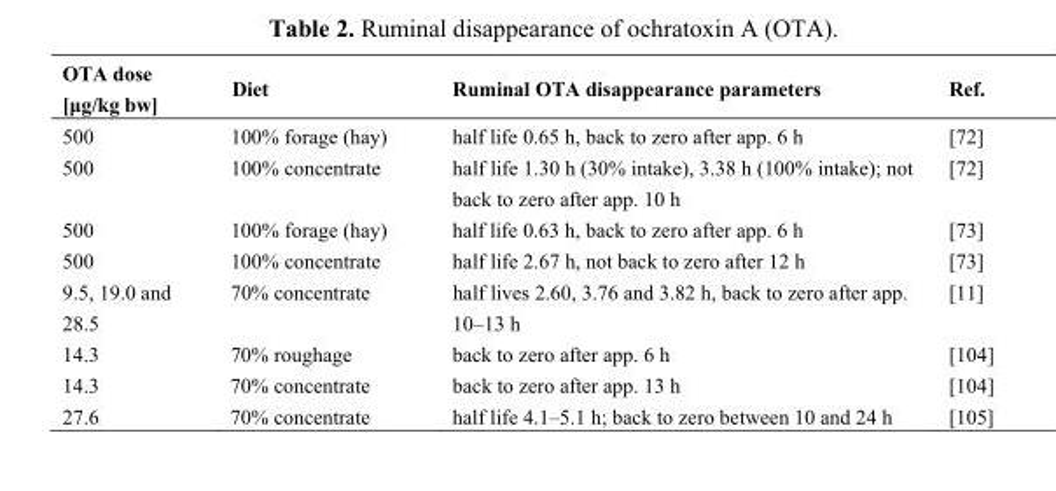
<table><thead><tr><td>OTA dose [μg/kg bw]</td><td>Diet</td><td>Ruminal OTA disappearance parameters</td><td>Ref.</td></tr></thead><tbody><tr><td>500</td><td>100% forage (hay)</td><td>half life 0.65 h, back to zero after app. 6 h</td><td>[72]</td></tr><tr><td>500</td><td>100% concentrate</td><td>half life 1.30 h (30% intake), 3.38 h (100% intake); not back to zero after app. 10 h</td><td>[72]</td></tr><tr><td>500</td><td>100% forage (hay)</td><td>half life 0.63 h, back to zero after app. 6 h</td><td>[73]</td></tr><tr><td>500</td><td>100% concentrate</td><td>half life 2.67 h, not back to zero after 12 h</td><td>[73]</td></tr><tr><td>9.5, 19.0 and 28.5</td><td>70% concentrate</td><td>half lives 2.60, 3.76 and 3.82 h, back to zero after app. 10–13 h</td><td>[11]</td></tr><tr><td>14.3</td><td>70% roughage</td><td>back to zero after app. 6 h</td><td>[104]</td></tr><tr><td>14.3</td><td>70% concentrate</td><td>back to zero after app. 13 h</td><td>[104]</td></tr><tr><td>27.6</td><td>70% concentrate</td><td>half life 4.1–5.1 h; back to zero between 10 and 24 h</td><td>[105]</td></tr></tbody></table>